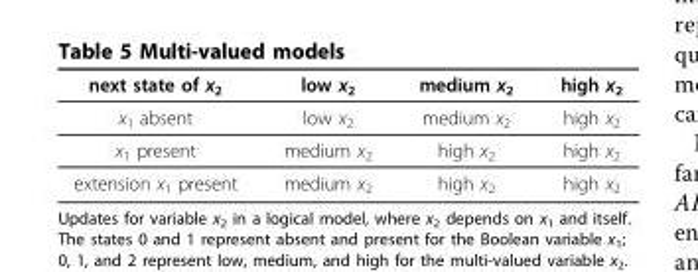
<table><thead><tr><td>next state of x<sub>2</sub></td><td>low x<sub>2</sub></td><td>medium x<sub>2</sub></td><td>high x<sub>2</sub></td></tr></thead><tbody><tr><td>x<sub>1</sub> absent</td><td>low x<sub>2</sub></td><td>medium x<sub>2</sub></td><td>high x<sub>2</sub></td></tr><tr><td>x<sub>1</sub> present</td><td>medium x<sub>2</sub></td><td>high x<sub>2</sub></td><td>high x<sub>2</sub></td></tr><tr><td>extension x<sub>1</sub> present</td><td>medium x<sub>2</sub></td><td>high x<sub>2</sub></td><td>high x<sub>2</sub></td></tr></tbody></table>